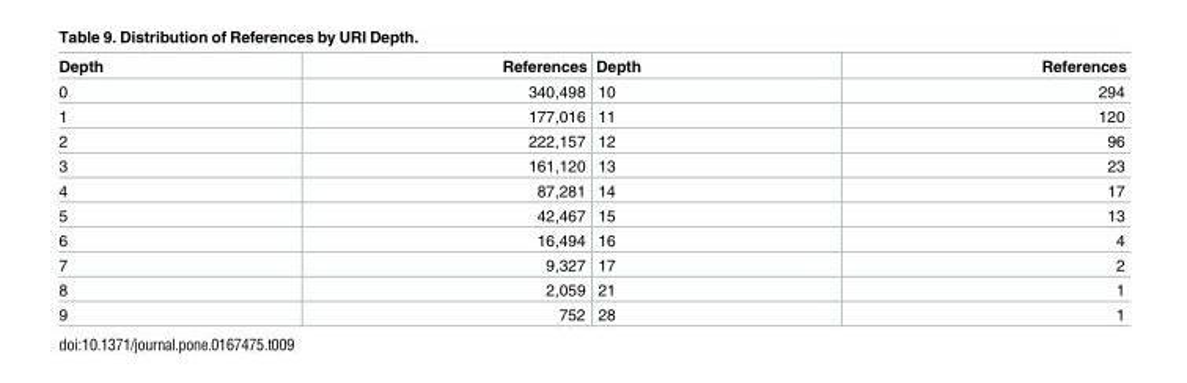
<table><thead><tr><td>Depth</td><td>References</td><td>Depth</td><td>References</td></tr></thead><tbody><tr><td>0</td><td>340,498</td><td>10</td><td>294</td></tr><tr><td>1</td><td>177,016</td><td>11</td><td>120</td></tr><tr><td>2</td><td>222,157</td><td>12</td><td>96</td></tr><tr><td>3</td><td>161,120</td><td>13</td><td>23</td></tr><tr><td>4</td><td>87,281</td><td>14</td><td>17</td></tr><tr><td>5</td><td>42,467</td><td>15</td><td>13</td></tr><tr><td>6</td><td>16,494</td><td>16</td><td>4</td></tr><tr><td>7</td><td>9,327</td><td>17</td><td>2</td></tr><tr><td>8</td><td>2,059</td><td>21</td><td>1</td></tr><tr><td>9</td><td>752</td><td>28</td><td>1</td></tr></tbody></table>